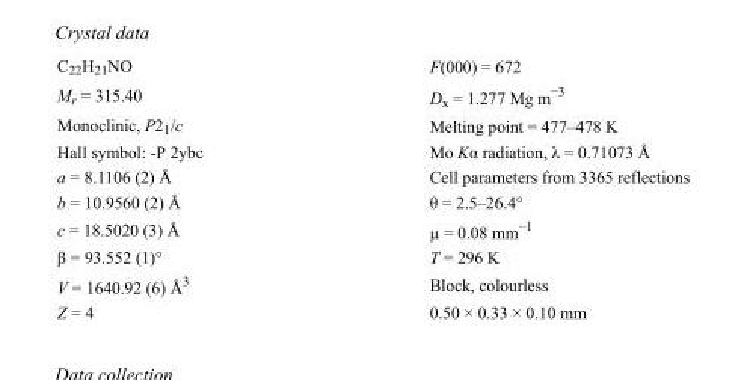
<table><tbody><tr><td>C<sub>22</sub>H<sub>21</sub>NO</td><td>F(000) = 672</td></tr><tr><td>M<sub>r</sub> = 315.40</td><td>D<sub>x</sub> = 1.277 Mg m<sup>−3</sup></td></tr><tr><td>Monoclinic, P2<sub>1</sub>/c</td><td>Melting point = 477–478 K</td></tr><tr><td>Hall symbol: -P 2ybc</td><td>Mo Kα radiation, λ = 0.71073 Å</td></tr><tr><td>a = 8.1106 (2) Å</td><td>Cell parameters from 3365 reflections</td></tr><tr><td>b = 10.9560 (2) Å</td><td>θ = 2.5–26.4°</td></tr><tr><td>c = 18.5020 (3) Å</td><td>µ = 0.08 mm<sup>−1</sup></td></tr><tr><td>β = 93.552 (1)°</td><td>T = 296 K</td></tr><tr><td>V = 1640.92 (6) Å<sup>3</sup></td><td>Block, colourless</td></tr><tr><td>Z = 4</td><td>0.50 × 0.33 × 0.10 mm</td></tr></tbody></table>